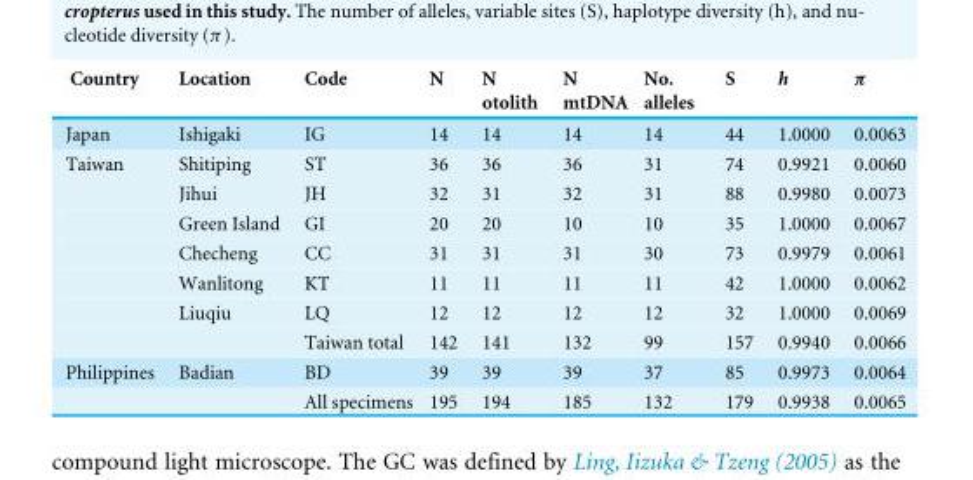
<table><thead><tr><td>Country</td><td>Location</td><td>Code</td><td>N</td><td>N otolith</td><td>N mtDNA</td><td>No. alleles</td><td>S</td><td>h</td><td>π</td></tr></thead><tbody><tr><td>Japan</td><td>Ishigaki</td><td>IG</td><td>14</td><td>14</td><td>14</td><td>14</td><td>44</td><td>1.0000</td><td>0.0063</td></tr><tr><td rowspan="7">Taiwan</td><td>Shitiping</td><td>ST</td><td>36</td><td>36</td><td>36</td><td>31</td><td>74</td><td>0.9921</td><td>0.0060</td></tr><tr><td>Jihui</td><td>JH</td><td>32</td><td>31</td><td>32</td><td>31</td><td>88</td><td>0.9980</td><td>0.0073</td></tr><tr><td>Green Island</td><td>GI</td><td>20</td><td>20</td><td>10</td><td>10</td><td>35</td><td>1.0000</td><td>0.0067</td></tr><tr><td>Checheng</td><td>CC</td><td>31</td><td>31</td><td>31</td><td>30</td><td>73</td><td>0.9979</td><td>0.0061</td></tr><tr><td>Wanlitong</td><td>KT</td><td>11</td><td>11</td><td>11</td><td>11</td><td>42</td><td>1.0000</td><td>0.0062</td></tr><tr><td>Liuqiu</td><td>LQ</td><td>12</td><td>12</td><td>12</td><td>12</td><td>32</td><td>1.0000</td><td>0.0069</td></tr><tr><td></td><td>Taiwan total</td><td>142</td><td>141</td><td>132</td><td>99</td><td>157</td><td>0.9940</td><td>0.0066</td></tr><tr><td rowspan="2">Philippines</td><td>Badian</td><td>BD</td><td>39</td><td>39</td><td>39</td><td>37</td><td>85</td><td>0.9973</td><td>0.0064</td></tr><tr><td></td><td>All specimens</td><td>195</td><td>194</td><td>185</td><td>132</td><td>179</td><td>0.9938</td><td>0.0065</td></tr></tbody></table>